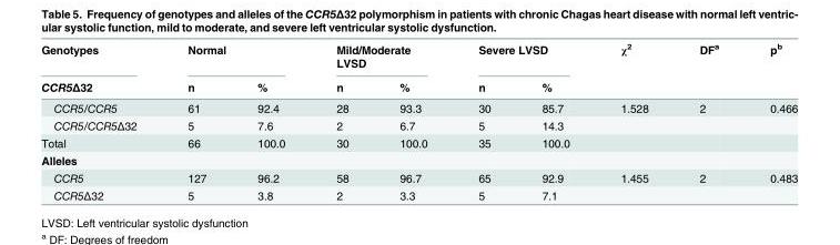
<table><thead><tr><td rowspan="2">Genotypes CCR5Δ32</td><td colspan="2">Normal</td><td colspan="2">Mild/Moderate LVSD</td><td colspan="2">Severe LVSD</td><td rowspan="2">χ<sup>2</sup></td><td rowspan="2">DF<sup>a</sup></td><td rowspan="2">p<sup>b</sup></td></tr><tr><td>n</td><td>%</td><td>n</td><td>%</td><td>n</td><td>%</td></tr></thead><tbody><tr><td>CCR5/CCR5</td><td>61</td><td>92.4</td><td>28</td><td>93.3</td><td>30</td><td>85.7</td><td>1.528</td><td>2</td><td>0.466</td></tr><tr><td>CCR5/CCR5Δ32</td><td>5</td><td>7.6</td><td>2</td><td>6.7</td><td>5</td><td>14.3</td><td></td><td></td><td></td></tr><tr><td>Total</td><td>66</td><td>100.0</td><td>30</td><td>100.0</td><td>35</td><td>100.0</td><td></td><td></td><td></td></tr><tr><td colspan="10">Alleles</td></tr><tr><td>CCR5</td><td>127</td><td>96.2</td><td>58</td><td>96.7</td><td>65</td><td>92.9</td><td>1.455</td><td>2</td><td>0.483</td></tr><tr><td>CCR5Δ32</td><td>5</td><td>3.8</td><td>2</td><td>3.3</td><td>5</td><td>7.1</td><td></td><td></td><td></td></tr></tbody></table>